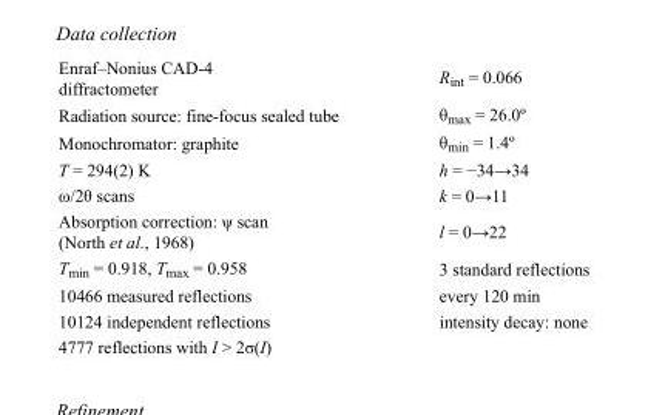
<table><tbody><tr><td>Enraf–Nonius CAD-4 diffractometer</td><td>R<sub>int</sub> = 0.066</td></tr><tr><td>Radiation source: fine-focus sealed tube</td><td>θ<sub>max</sub> = 26.0º</td></tr><tr><td>Monochromator: graphite</td><td>θ<sub>min</sub> = 1.4º</td></tr><tr><td>T = 294(2) K</td><td>h = −34→34</td></tr><tr><td>ω/2θ scans</td><td>k = 0→11</td></tr><tr><td>Absorption correction: ψ scan (North et al., 1968)</td><td>l = 0→22</td></tr><tr><td>T<sub>min</sub> = 0.918, T<sub>max</sub> = 0.958</td><td>3 standard reflections</td></tr><tr><td>10466 measured reflections</td><td>every 120 min</td></tr><tr><td>10124 independent reflections</td><td>intensity decay: none</td></tr><tr><td>4777 reflections with I &gt; 2σ(I)</td><td></td></tr></tbody></table>